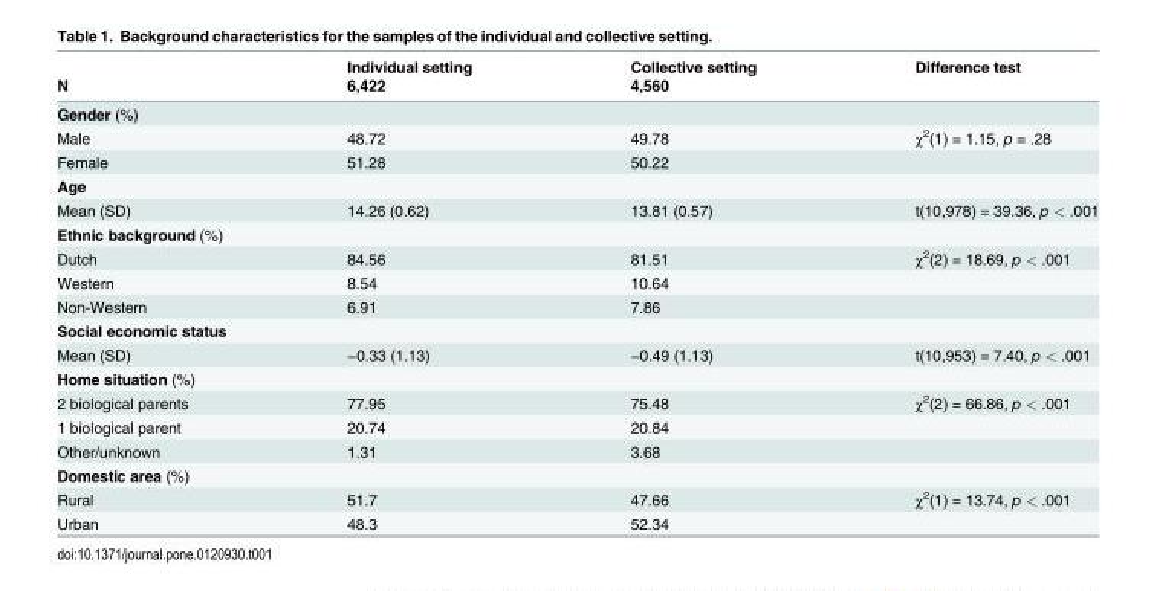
<table><thead><tr><td rowspan="2">N</td><td rowspan="2">Individual setting 6,422</td><td rowspan="2">Collective setting 4,560</td><td rowspan="2">Difference test</td></tr><tr></tr></thead><tbody><tr><td colspan="4">Gender (%)</td></tr><tr><td>Male</td><td>48.72</td><td>49.78</td><td>χ<sup>2</sup>(1) = 1.15, p = .28</td></tr><tr><td>Female</td><td>51.28</td><td>50.22</td><td></td></tr><tr><td colspan="4">Age</td></tr><tr><td>Mean (SD)</td><td>14.26 (0.62)</td><td>13.81 (0.57)</td><td>t(10,978) = 39.36, p &lt; .001</td></tr><tr><td colspan="4">Ethnic background (%)</td></tr><tr><td>Dutch</td><td>84.56</td><td>81.51</td><td>χ<sup>2</sup>(2) = 18.69, p &lt; .001</td></tr><tr><td>Western</td><td>8.54</td><td>10.64</td><td></td></tr><tr><td>Non-Western</td><td>6.91</td><td>7.86</td><td></td></tr><tr><td colspan="4">Social economic status</td></tr><tr><td>Mean (SD)</td><td>−0.33 (1.13)</td><td>−0.49 (1.13)</td><td>t(10,953) = 7.40, p &lt; .001</td></tr><tr><td colspan="4">Home situation (%)</td></tr><tr><td>2 biological parents</td><td>77.95</td><td>75.48</td><td>χ<sup>2</sup>(2) = 66.86, p &lt; .001</td></tr><tr><td>1 biological parent</td><td>20.74</td><td>20.84</td><td></td></tr><tr><td>Other/unknown</td><td>1.31</td><td>3.68</td><td></td></tr><tr><td colspan="4">Domestic area (%)</td></tr><tr><td>Rural</td><td>51.7</td><td>47.66</td><td>χ<sup>2</sup>(1) = 13.74, p &lt; .001</td></tr><tr><td>Urban</td><td>48.3</td><td>52.34</td><td></td></tr></tbody></table>